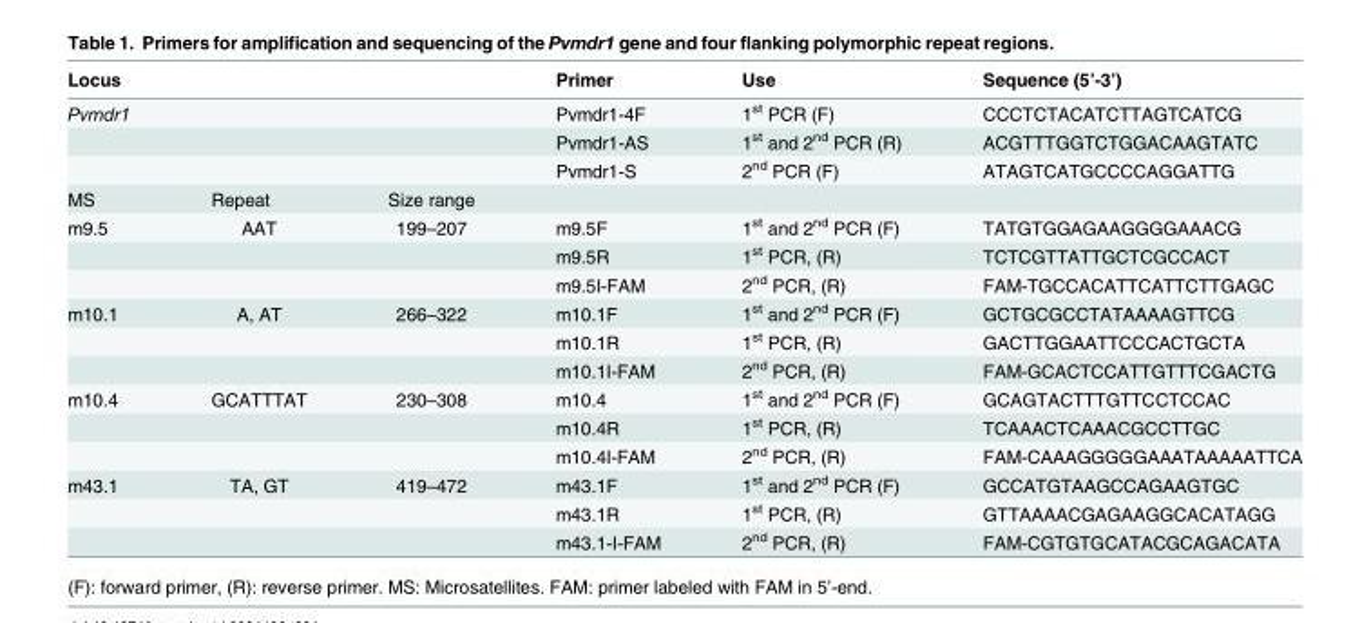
<table><thead><tr><td>Locus</td><td></td><td></td><td>Primer</td><td>Use</td><td>Sequence (5’-3’)</td></tr></thead><tbody><tr><td rowspan="3">Pvmdr1</td><td colspan="2"></td><td>Pvmdr1-4F</td><td>1<sup>st</sup> PCR (F)</td><td>CCCTCTACATCTTAGTCATCG</td></tr><tr><td></td><td></td><td>Pvmdr1-AS</td><td>1<sup>st</sup> and 2<sup>nd</sup> PCR (R)</td><td>ACGTTTGGTCTGGACAAGTATC</td></tr><tr><td></td><td></td><td>Pvmdr1-S</td><td>2<sup>nd</sup> PCR (F)</td><td>ATAGTCATGCCCCAGGATTG</td></tr><tr><td>MS</td><td>Repeat</td><td>Size range</td><td colspan="3"></td></tr><tr><td rowspan="3">m9.5</td><td>AAT</td><td>199–207</td><td>m9.5F</td><td>1<sup>st</sup> and 2<sup>nd</sup> PCR (F)</td><td>TATGTGGAGAAGGGGAAACG</td></tr><tr><td></td><td></td><td>m9.5R</td><td>1<sup>st</sup> PCR, (R)</td><td>TCTCGTTATTGCTCGCCACT</td></tr><tr><td></td><td></td><td>m9.5I-FAM</td><td>2<sup>nd</sup> PCR, (R)</td><td>FAM-TGCCACATTCATTCTTGAGC</td></tr><tr><td rowspan="3">m10.1</td><td>A, AT</td><td>266–322</td><td>m10.1F</td><td>1<sup>st</sup> and 2<sup>nd</sup> PCR (F)</td><td>GCTGCGCCTATAAAAGTTCG</td></tr><tr><td></td><td></td><td>m10.1R</td><td>1<sup>st</sup> PCR, (R)</td><td>GACTTGGAATTCCCACTGCTA</td></tr><tr><td></td><td></td><td>m10.1I-FAM</td><td>2<sup>nd</sup> PCR, (R)</td><td>FAM-GCACTCCATTGTTTCGACTG</td></tr><tr><td rowspan="3">m10.4</td><td>GCATTTAT</td><td>230–308</td><td>m10.4</td><td>1<sup>st</sup> and 2<sup>nd</sup> PCR (F)</td><td>GCAGTACTTTGTTCCTCCAC</td></tr><tr><td></td><td></td><td>m10.4R</td><td>1<sup>st</sup> PCR, (R)</td><td>TCAAACTCAAACGCCTTGC</td></tr><tr><td></td><td></td><td>m10.4I-FAM</td><td>2<sup>nd</sup> PCR, (R)</td><td>FAM-CAAAGGGGGAAATAAAAATTCA</td></tr><tr><td rowspan="3">m43.1</td><td>TA, GT</td><td>419–472</td><td>m43.1F</td><td>1<sup>st</sup> and 2<sup>nd</sup> PCR (F)</td><td>GCCATGTAAGCCAGAAGTGC</td></tr><tr><td></td><td></td><td>m43.1R</td><td>1<sup>st</sup> PCR, (R)</td><td>GTTAAAACGAGAAGGCACATAGG</td></tr><tr><td></td><td></td><td>m43.1-I-FAM</td><td>2<sup>nd</sup> PCR, (R)</td><td>FAM-CGTGTGCATACGCAGACATA</td></tr></tbody></table>